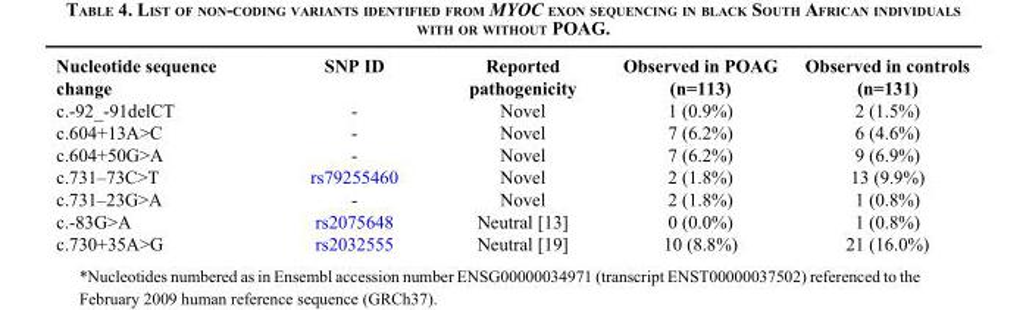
<table><thead><tr><td>Nucleotide sequence change</td><td>SNP ID</td><td>Reported pathogenicity</td><td>Observed in POAG (n=113)</td><td>Observed in controls (n=131)</td></tr></thead><tbody><tr><td>c.-92_-91delCT</td><td>-</td><td>Novel</td><td>1 (0.9%)</td><td>2 (1.5%)</td></tr><tr><td>c.604+13A&gt;C</td><td>-</td><td>Novel</td><td>7 (6.2%)</td><td>6 (4.6%)</td></tr><tr><td>c.604+50G&gt;A</td><td>-</td><td>Novel</td><td>7 (6.2%)</td><td>9 (6.9%)</td></tr><tr><td>c.731–73C&gt;T</td><td>rs79255460</td><td>Novel</td><td>2 (1.8%)</td><td>13 (9.9%)</td></tr><tr><td>c.731–23G&gt;A</td><td>-</td><td>Novel</td><td>2 (1.8%)</td><td>1 (0.8%)</td></tr><tr><td>c.-83G&gt;A</td><td>rs2075648</td><td>Neutral [13]</td><td>0 (0.0%)</td><td>1 (0.8%)</td></tr><tr><td>c.730+35A&gt;G</td><td>rs2032555</td><td>Neutral [19]</td><td>10 (8.8%)</td><td>21 (16.0%)</td></tr></tbody></table>